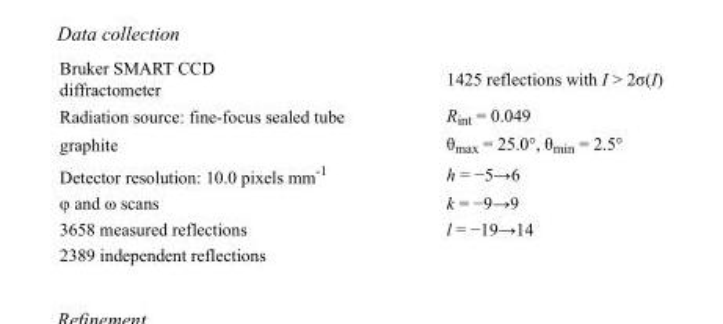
<table><tbody><tr><td>Bruker SMART CCD diffractometer</td><td>1425 reflections with I &gt; 2σ(I)</td></tr><tr><td>Radiation source: fine-focus sealed tube</td><td>R<sub>int</sub> = 0.049</td></tr><tr><td>graphite</td><td>θ<sub>max</sub> = 25.0°, θ<sub>min</sub> = 2.5°</td></tr><tr><td>Detector resolution: 10.0 pixels mm<sup>-1</sup></td><td>h = −5→6</td></tr><tr><td>φ and ω scans</td><td>k = −9→9</td></tr><tr><td>3658 measured reflections</td><td>l = −19→14</td></tr><tr><td>2389 independent reflections</td><td></td></tr></tbody></table>